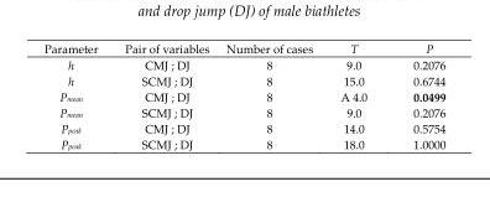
<table><thead><tr><td>Parameter</td><td>Pair of variables</td><td>Number of cases</td><td>T</td><td>P</td></tr></thead><tbody><tr><td>h</td><td>CMJ ; DJ</td><td>8</td><td>9.0</td><td>0.2076</td></tr><tr><td>h</td><td>SCMJ ; DJ</td><td>8</td><td>15.0</td><td>0.6744</td></tr><tr><td>P<sub>mean</sub></td><td>CMJ ; DJ</td><td>8</td><td>A 4.0</td><td>0.0499</td></tr><tr><td>P<sub>mean</sub></td><td>SCMJ ; DJ</td><td>8</td><td>9.0</td><td>0.2076</td></tr><tr><td>P<sub>peak</sub></td><td>CMJ ; DJ</td><td>8</td><td>14.0</td><td>0.5754</td></tr><tr><td>P<sub>peak</sub></td><td>SCMJ ; DJ</td><td>8</td><td>18.0</td><td>1.0000</td></tr></tbody></table>